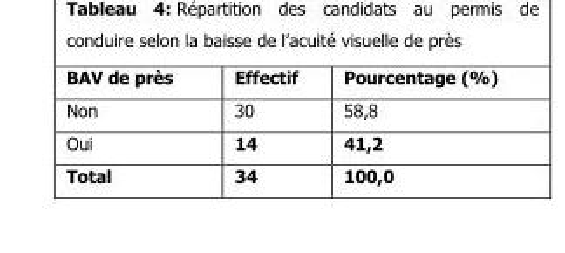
<table><thead><tr><td>BAV de près</td><td>Effectif</td><td>Pourcentage (%)</td></tr></thead><tbody><tr><td>Non</td><td>30</td><td>58,8</td></tr><tr><td>Oui</td><td>14</td><td>41,2</td></tr><tr><td>Total</td><td>34</td><td>100,0</td></tr></tbody></table>